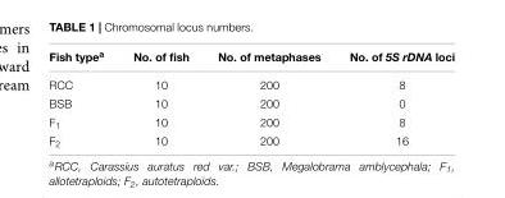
<table><thead><tr><td>Fish type<sup>a</sup></td><td>No. of fish</td><td>No. of metaphases</td><td>No. of 5S rDNA loci</td></tr></thead><tbody><tr><td>RCC</td><td>10</td><td>200</td><td>8</td></tr><tr><td>BSB</td><td>10</td><td>200</td><td>0</td></tr><tr><td>F<sub>1</sub></td><td>10</td><td>200</td><td>8</td></tr><tr><td>F<sub>2</sub></td><td>10</td><td>200</td><td>16</td></tr></tbody></table>